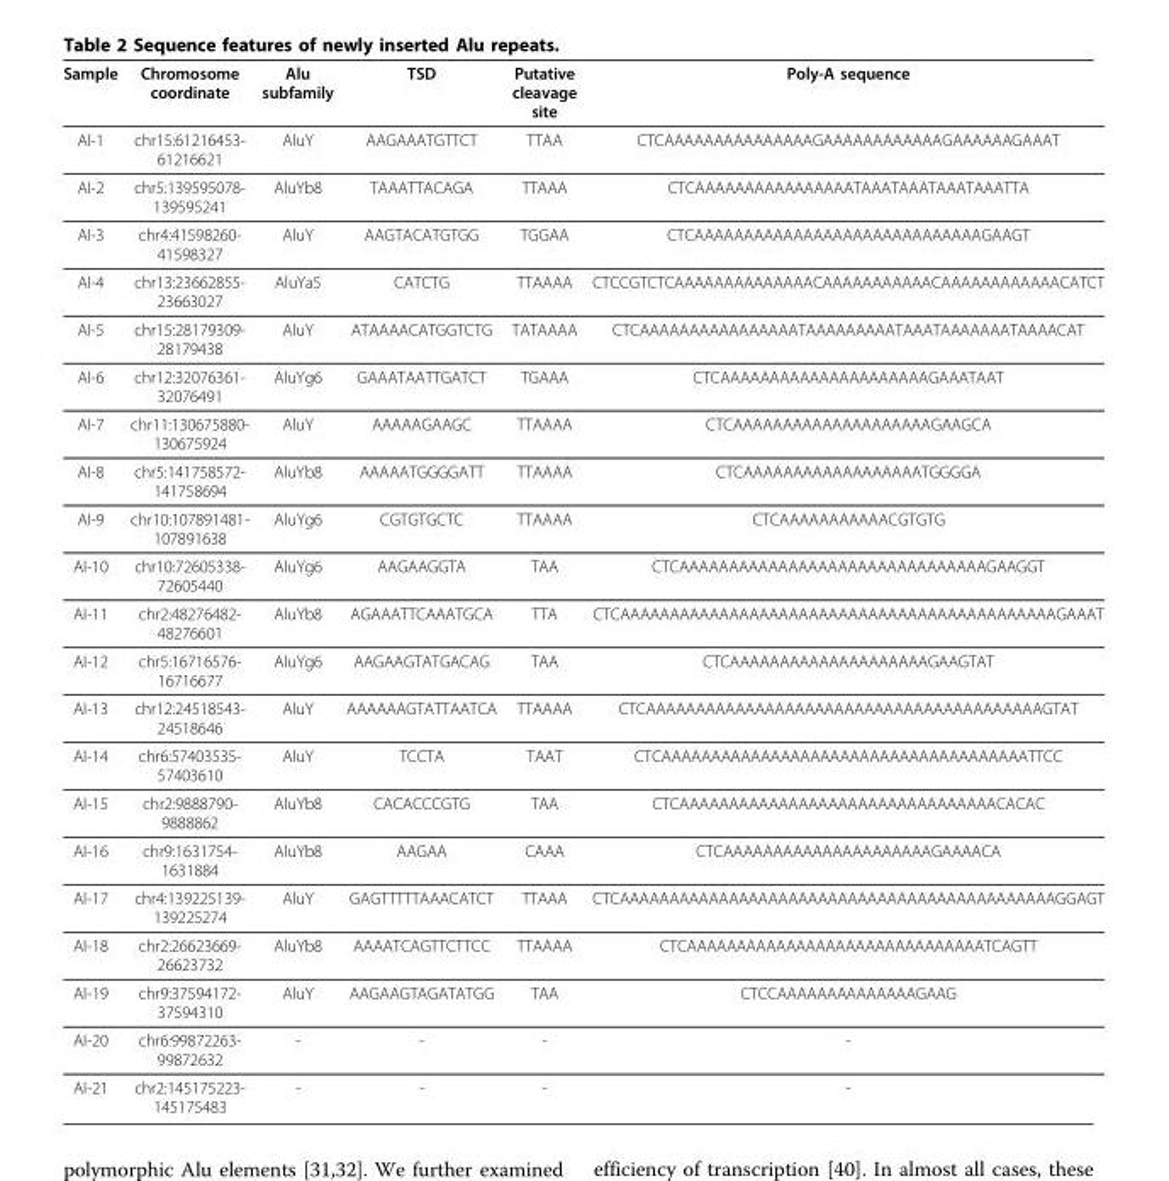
<table><thead><tr><td>Sample</td><td>Chromosome coordinate</td><td>Alu subfamily</td><td>TSD</td><td>Putative cleavage site</td><td>Poly-A sequence</td></tr></thead><tbody><tr><td>AI-1</td><td>chr15:61216453- 61216621</td><td>AluY</td><td>AAGAAATGTTCT</td><td>TTAA</td><td>CTCAAAAAAAAAAAAAAAGAAAAAAAAAAAAGAAAAAAGAAAT</td></tr><tr><td>AI-2</td><td>chr5:139595078- 139595241</td><td>AluYb8</td><td>TAAATTACAGA</td><td>TTAAA</td><td>CTCAAAAAAAAAAAAAAAATAAATAAATAAATAAATTA</td></tr><tr><td>AI-3</td><td>chr4:41598260- 41598327</td><td>AluY</td><td>AAGTACATGTGG</td><td>TGGAA</td><td>CTCAAAAAAAAAAAAAAAAAAAAAAAAAAAAAGAAGT</td></tr><tr><td>AI-4</td><td>chr13:23662855- 23663027</td><td>AluYa5</td><td>CATCTG</td><td>TTAAAA</td><td>CTCCGTCTCAAAAAAAAAAAAAACAAAAAAAAAAACAAAAAAAAAAAACATCT</td></tr><tr><td>AI-5</td><td>chr15:28179309- 28179438</td><td>AluY</td><td>ATAAAACATGGTCTG</td><td>TATAAAA</td><td>CTCAAAAAAAAAAAAAAAATAAAAAAAAATAAATAAAAAAATAAAACAT</td></tr><tr><td>AI-6</td><td>chr12:32076361- 32076491</td><td>AluYg6</td><td>GAAATAATTGATCT</td><td>TGAAA</td><td>CTCAAAAAAAAAAAAAAAAAAAAAGAAATAAT</td></tr><tr><td>AI-7</td><td>chr11:130675880- 130675924</td><td>AluY</td><td>AAAAAGAAGC</td><td>TTAAAA</td><td>CTCAAAAAAAAAAAAAAAAAAAAGAAGCA</td></tr><tr><td>AI-8</td><td>chr5:141758572- 141758694</td><td>AluYb8</td><td>AAAAATGGGGATT</td><td>TTAAAA</td><td>CTCAAAAAAAAAAAAAAAAAATGGGGA</td></tr><tr><td>AI-9</td><td>chr10:107891481- 107891638</td><td>AluYg6</td><td>CGTGTGCTC</td><td>TTAAAA</td><td>CTCAAAAAAAAAAACGTGTG</td></tr><tr><td>AI-10</td><td>chr10:72605338- 72605440</td><td>AluYg6</td><td>AAGAAGGTA</td><td>TAA</td><td>CTCAAAAAAAAAAAAAAAAAAAAAAAAAAAAAAAGAAGGT</td></tr><tr><td>AI-11</td><td>chr2:48276482- 48276601</td><td>AluYb8</td><td>AGAAATTCAAATGCA</td><td>TTA</td><td>CTCAAAAAAAAAAAAAAAAAAAAAAAAAAAAAAAAAAAAAAAAAAAAGAAAT</td></tr><tr><td>AI-12</td><td>chr5:16716576- 16716677</td><td>AluYg6</td><td>AAGAAGTATGACAG</td><td>TAA</td><td>CTCAAAAAAAAAAAAAAAAAAAAGAAGTAT</td></tr><tr><td>AI-13</td><td>chr12:24518543- 24518646</td><td>AluY</td><td>AAAAAAGTATTAATCA</td><td>TTAAAA</td><td>CTCAAAAAAAAAAAAAAAAAAAAAAAAAAAAAAAAAAAAAAAAGTAT</td></tr><tr><td>AI-14</td><td>chr6:57403535- 57403610</td><td>AluY</td><td>TCCTA</td><td>TAAT</td><td>CTCAAAAAAAAAAAAAAAAAAAAAAAAAAAAAAAAAAAAATTCC</td></tr><tr><td>AI-15</td><td>chr2:9888790- 9888862</td><td>AluYb8</td><td>CACACCCGTG</td><td>TAA</td><td>CTCAAAAAAAAAAAAAAAAAAAAAAAAAAAAAAAACACAC</td></tr><tr><td>AI-16</td><td>chr9:1631754- 1631884</td><td>AluYb8</td><td>AAGAA</td><td>CAAA</td><td>CTCAAAAAAAAAAAAAAAAAAAAAGAAAACA</td></tr><tr><td>AI-17</td><td>chr4:139225139- 139225274</td><td>AluY</td><td>GAGTTTTTAAACATCT</td><td>TTAAA</td><td>CTCAAAAAAAAAAAAAAAAAAAAAAAAAAAAAAAAAAAAAAAAAAAAGGAGT</td></tr><tr><td>AI-18</td><td>chr2:26623669- 26623732</td><td>AluYb8</td><td>AAAATCAGTTCTTCC</td><td>TTAAAA</td><td>CTCAAAAAAAAAAAAAAAAAAAAAAAAAAAAAATCAGTT</td></tr><tr><td>AI-19</td><td>chr9:37594172- 37594310</td><td>AluY</td><td>AAGAAGTAGATATGG</td><td>TAA</td><td>CTCCAAAAAAAAAAAAAAGAAG</td></tr><tr><td>AI-20</td><td>chr6:99872263- 99872632</td><td>-</td><td>-</td><td>-</td><td>-</td></tr><tr><td>AI-21</td><td>chr2:145175223- 145175483</td><td>-</td><td>-</td><td>-</td><td>-</td></tr></tbody></table>